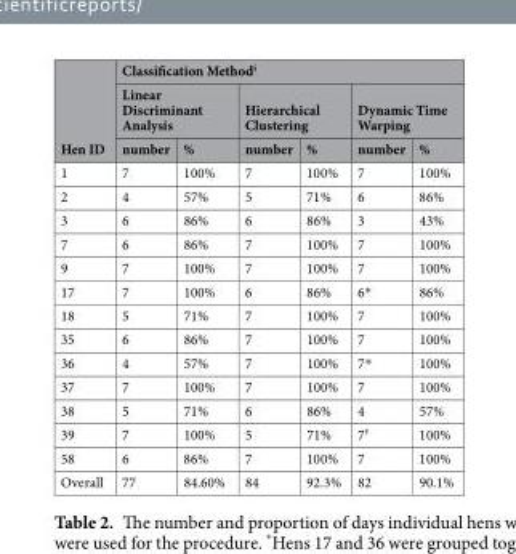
<table><thead><tr><td rowspan="3">Hen ID</td><td colspan="6">Classification Method<sup>i</sup></td></tr><tr><td colspan="2">Linear Discriminant Analysis</td><td colspan="2">Hierarchical Clustering</td><td colspan="2">Dynamic Time Warping</td></tr><tr><td>number</td><td>%</td><td>number</td><td>%</td><td>number</td><td>%</td></tr></thead><tbody><tr><td>1</td><td>7</td><td>100%</td><td>7</td><td>100%</td><td>7</td><td>100%</td></tr><tr><td>2</td><td>4</td><td>57%</td><td>5</td><td>71%</td><td>6</td><td>86%</td></tr><tr><td>3</td><td>6</td><td>86%</td><td>6</td><td>86%</td><td>3</td><td>43%</td></tr><tr><td>7</td><td>6</td><td>86%</td><td>7</td><td>100%</td><td>7</td><td>100%</td></tr><tr><td>9</td><td>7</td><td>100%</td><td>7</td><td>100%</td><td>7</td><td>100%</td></tr><tr><td>17</td><td>7</td><td>100%</td><td>6</td><td>86%</td><td>6*</td><td>86%</td></tr><tr><td>18</td><td>5</td><td>71%</td><td>7</td><td>100%</td><td>7</td><td>100%</td></tr><tr><td>35</td><td>6</td><td>86%</td><td>7</td><td>100%</td><td>7</td><td>100%</td></tr><tr><td>36</td><td>4</td><td>57%</td><td>7</td><td>100%</td><td>7*</td><td>100%</td></tr><tr><td>37</td><td>7</td><td>100%</td><td>7</td><td>100%</td><td>7</td><td>100%</td></tr><tr><td>38</td><td>5</td><td>71%</td><td>6</td><td>86%</td><td>4</td><td>57%</td></tr><tr><td>39</td><td>7</td><td>100%</td><td>5</td><td>71%</td><td>7<sup>†</sup></td><td>100%</td></tr><tr><td>58</td><td>6</td><td>86%</td><td>7</td><td>100%</td><td>7</td><td>100%</td></tr><tr><td>Overall</td><td>77</td><td>84.60%</td><td>84</td><td>92.3%</td><td>82</td><td>90.1%</td></tr></tbody></table>